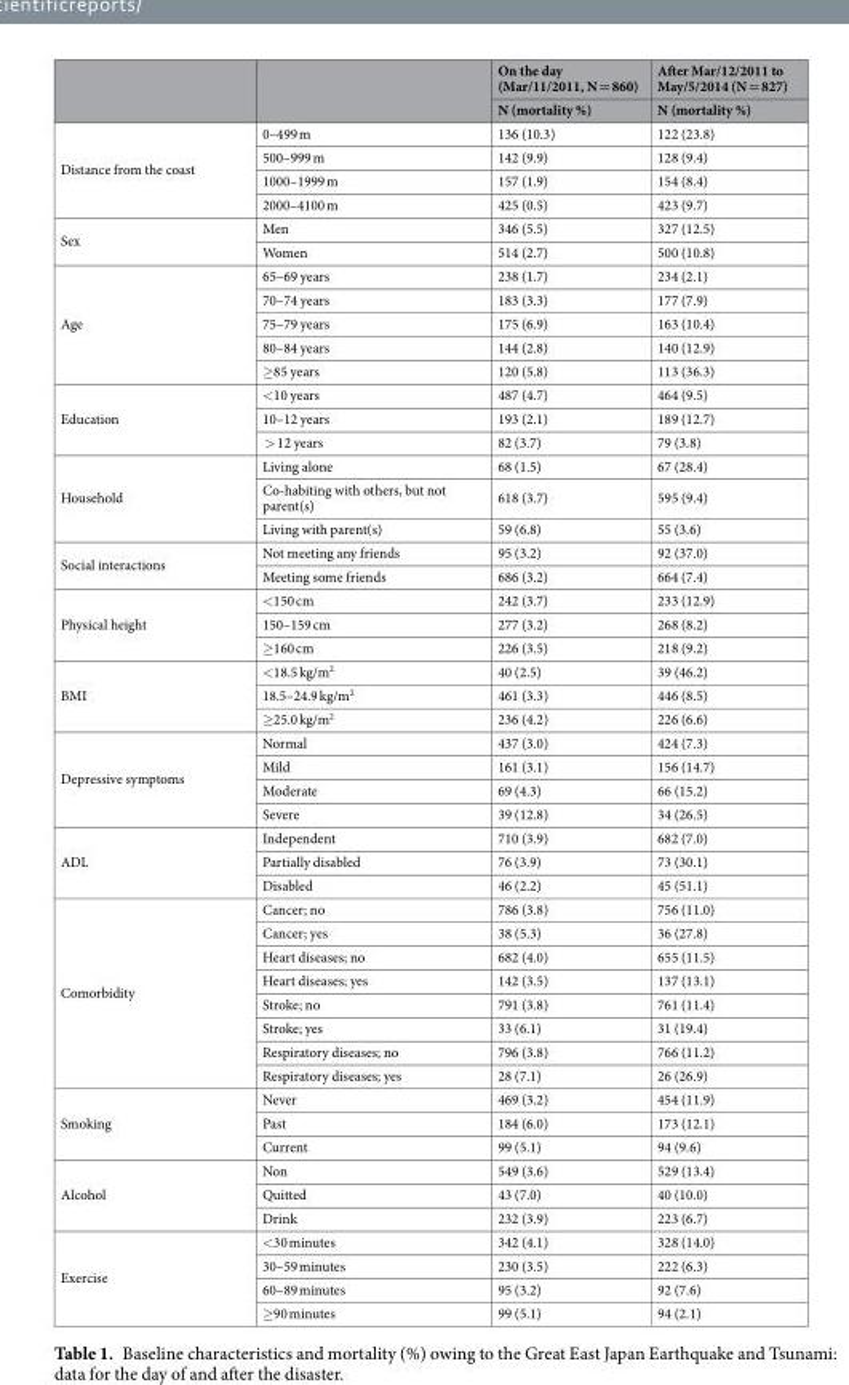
<table><thead><tr><td rowspan="2"></td><td rowspan="2"></td><td rowspan="2">On the day (Mar/11/2011, N = 860) N (mortality %)</td><td rowspan="2">After Mar/12/2011 to May/5/2014 (N = 827) N (mortality %)</td></tr><tr></tr></thead><tbody><tr><td rowspan="4">Distance from the coast</td><td>0–499 m</td><td>136 (10.3)</td><td>122 (23.8)</td></tr><tr><td>500–999 m</td><td>142 (9.9)</td><td>128 (9.4)</td></tr><tr><td>1000–1999 m</td><td>157 (1.9)</td><td>154 (8.4)</td></tr><tr><td>2000–4100 m</td><td>425 (0.5)</td><td>423 (9.7)</td></tr><tr><td rowspan="2">Sex</td><td>Men</td><td>346 (5.5)</td><td>327 (12.5)</td></tr><tr><td>Women</td><td>514 (2.7)</td><td>500 (10.8)</td></tr><tr><td rowspan="5">Age</td><td>65–69 years</td><td>238 (1.7)</td><td>234 (2.1)</td></tr><tr><td>70–74 years</td><td>183 (3.3)</td><td>177 (7.9)</td></tr><tr><td>75–79 years</td><td>175 (6.9)</td><td>163 (10.4)</td></tr><tr><td>80–84 years</td><td>144 (2.8)</td><td>140 (12.9)</td></tr><tr><td>≥85 years</td><td>120 (5.8)</td><td>113 (36.3)</td></tr><tr><td rowspan="3">Education</td><td>&lt;10 years</td><td>487 (4.7)</td><td>464 (9.5)</td></tr><tr><td>10–12 years</td><td>193 (2.1)</td><td>189 (12.7)</td></tr><tr><td>&gt; 12 years</td><td>82 (3.7)</td><td>79 (3.8)</td></tr><tr><td rowspan="3">Household</td><td>Living alone</td><td>68 (1.5)</td><td>67 (28.4)</td></tr><tr><td>Co-habiting with others, but not parent(s)</td><td>618 (3.7)</td><td>595 (9.4)</td></tr><tr><td>Living with parent(s)</td><td>59 (6.8)</td><td>55 (3.6)</td></tr><tr><td rowspan="2">Social interactions</td><td>Not meeting any friends</td><td>95 (3.2)</td><td>92 (37.0)</td></tr><tr><td>Meeting some friends</td><td>686 (3.2)</td><td>664 (7.4)</td></tr><tr><td rowspan="3">Physical height</td><td>&lt;150 cm</td><td>242 (3.7)</td><td>233 (12.9)</td></tr><tr><td>150–159 cm</td><td>277 (3.2)</td><td>268 (8.2)</td></tr><tr><td>≥160 cm</td><td>226 (3.5)</td><td>218 (9.2)</td></tr><tr><td rowspan="3">BMI</td><td>&lt;18.5 kg/m<sup>2</sup></td><td>40 (2.5)</td><td>39 (46.2)</td></tr><tr><td>18.5–24.9 kg/m<sup>2</sup></td><td>461 (3.3)</td><td>446 (8.5)</td></tr><tr><td>≥25.0 kg/m<sup>2</sup></td><td>236 (4.2)</td><td>226 (6.6)</td></tr><tr><td rowspan="4">Depressive symptoms</td><td>Normal</td><td>437 (3.0)</td><td>424 (7.3)</td></tr><tr><td>Mild</td><td>161 (3.1)</td><td>156 (14.7)</td></tr><tr><td>Moderate</td><td>69 (4.3)</td><td>66 (15.2)</td></tr><tr><td>Severe</td><td>39 (12.8)</td><td>34 (26.5)</td></tr><tr><td rowspan="3">ADL</td><td>Independent</td><td>710 (3.9)</td><td>682 (7.0)</td></tr><tr><td>Partially disabled</td><td>76 (3.9)</td><td>73 (30.1)</td></tr><tr><td>Disabled</td><td>46 (2.2)</td><td>45 (51.1)</td></tr><tr><td rowspan="8">Comorbidity</td><td>Cancer; no</td><td>786 (3.8)</td><td>756 (11.0)</td></tr><tr><td>Cancer; yes</td><td>38 (5.3)</td><td>36 (27.8)</td></tr><tr><td>Heart diseases; no</td><td>682 (4.0)</td><td>655 (11.5)</td></tr><tr><td>Heart diseases; yes</td><td>142 (3.5)</td><td>137 (13.1)</td></tr><tr><td>Stroke; no</td><td>791 (3.8)</td><td>761 (11.4)</td></tr><tr><td>Stroke; yes</td><td>33 (6.1)</td><td>31 (19.4)</td></tr><tr><td>Respiratory diseases; no</td><td>796 (3.8)</td><td>766 (11.2)</td></tr><tr><td>Respiratory diseases; yes</td><td>28 (7.1)</td><td>26 (26.9)</td></tr><tr><td rowspan="3">Smoking</td><td>Never</td><td>469 (3.2)</td><td>454 (11.9)</td></tr><tr><td>Past</td><td>184 (6.0)</td><td>173 (12.1)</td></tr><tr><td>Current</td><td>99 (5.1)</td><td>94 (9.6)</td></tr><tr><td rowspan="3">Alcohol</td><td>Non</td><td>549 (3.6)</td><td>529 (13.4)</td></tr><tr><td>Quitted</td><td>43 (7.0)</td><td>40 (10.0)</td></tr><tr><td>Drink</td><td>232 (3.9)</td><td>223 (6.7)</td></tr><tr><td rowspan="4">Exercise</td><td>&lt;30 minutes</td><td>342 (4.1)</td><td>328 (14.0)</td></tr><tr><td>30–59 minutes</td><td>230 (3.5)</td><td>222 (6.3)</td></tr><tr><td>60–89 minutes</td><td>95 (3.2)</td><td>92 (7.6)</td></tr><tr><td>≥90 minutes</td><td>99 (5.1)</td><td>94 (2.1)</td></tr></tbody></table>